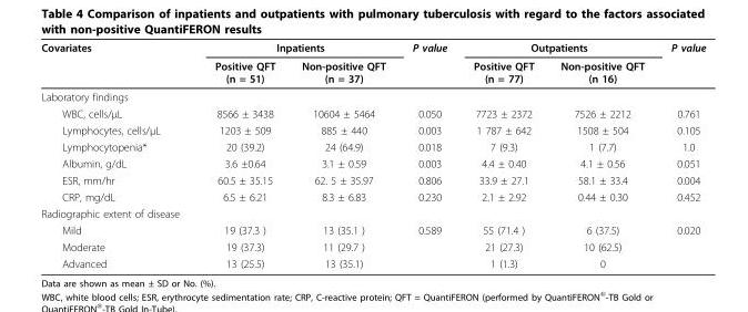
<table><thead><tr><td rowspan="2">Covariates</td><td colspan="2">Inpatients</td><td rowspan="2">P value</td><td colspan="2">Outpatients</td><td rowspan="2">P value</td></tr><tr><td>Positive QFT (n = 51)</td><td>Non-positive QFT (n = 37)</td><td>Positive QFT (n = 77)</td><td>Non-positive QFT (n 16)</td></tr></thead><tbody><tr><td colspan="7">Laboratory findings</td></tr><tr><td>WBC, cells/μL</td><td>8566 ± 3438</td><td>10604 ± 5464</td><td>0.050</td><td>7723 ± 2372</td><td>7526 ± 2212</td><td>0.761</td></tr><tr><td>Lymphocytes, cells/μL</td><td>1203 ± 509</td><td>885 ± 440</td><td>0.003</td><td>1 787 ± 642</td><td>1508 ± 504</td><td>0.105</td></tr><tr><td>Lymphocytopenia*</td><td>20 (39.2)</td><td>24 (64.9)</td><td>0.018</td><td>7 (9.3)</td><td>1 (7.7)</td><td>1.0</td></tr><tr><td>Albumin, g/dL</td><td>3.6 ±0.64</td><td>3.1 ± 0.59</td><td>0.003</td><td>4.4 ± 0.40</td><td>4.1 ± 0.56</td><td>0.051</td></tr><tr><td>ESR, mm/hr</td><td>60.5 ± 35.15</td><td>62. 5 ± 35.97</td><td>0.806</td><td>33.9 ± 27.1</td><td>58.1 ± 33.4</td><td>0.004</td></tr><tr><td>CRP, mg/dL</td><td>6.5 ± 6.21</td><td>8.3 ± 6.83</td><td>0.230</td><td>2.1 ± 2.92</td><td>0.44 ± 0.30</td><td>0.452</td></tr><tr><td colspan="7">Radiographic extent of disease</td></tr><tr><td>Mild</td><td>19 (37.3 )</td><td>13 (35.1 )</td><td>0.589</td><td>55 (71.4 )</td><td>6 (37.5)</td><td>0.020</td></tr><tr><td>Moderate</td><td>19 (37.3)</td><td>11 (29.7 )</td><td></td><td>21 (27.3)</td><td>10 (62.5)</td><td></td></tr><tr><td>Advanced</td><td>13 (25.5)</td><td>13 (35.1)</td><td></td><td>1 (1.3)</td><td>0</td><td></td></tr></tbody></table>